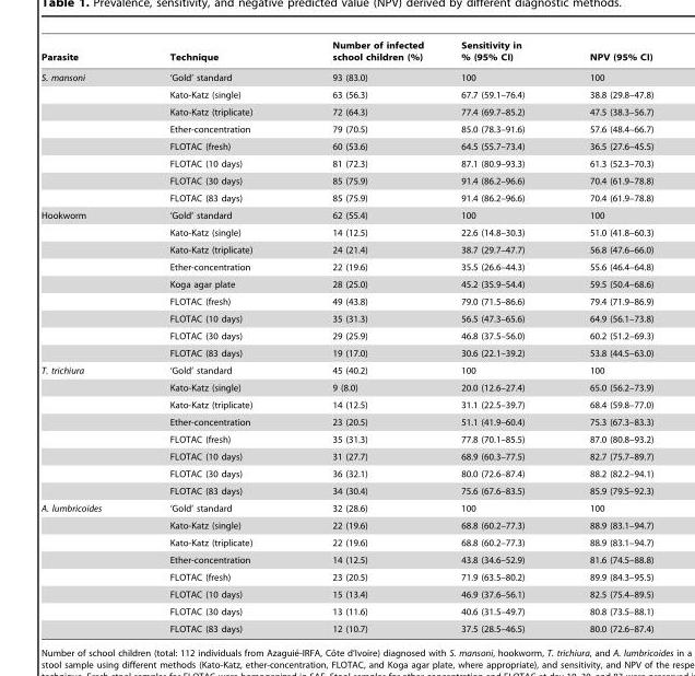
<table><thead><tr><td>Parasite</td><td>Technique</td><td>Number of infected school children (%)</td><td>Sensitivity in % (95% CI)</td><td>NPV (95% CI)</td></tr></thead><tbody><tr><td rowspan="8">S. mansoni</td><td>‘Gold’ standard</td><td>93 (83.0)</td><td>100</td><td>100</td></tr><tr><td>Kato-Katz (single)</td><td>63 (56.3)</td><td>67.7 (59.1–76.4)</td><td>38.8 (29.8–47.8)</td></tr><tr><td>Kato-Katz (triplicate)</td><td>72 (64.3)</td><td>77.4 (69.7–85.2)</td><td>47.5 (38.3–56.7)</td></tr><tr><td>Ether-concentration</td><td>79 (70.5)</td><td>85.0 (78.3–91.6)</td><td>57.6 (48.4–66.7)</td></tr><tr><td>FLOTAC (fresh)</td><td>60 (53.6)</td><td>64.5 (55.7–73.4)</td><td>36.5 (27.6–45.5)</td></tr><tr><td>FLOTAC (10 days)</td><td>81 (72.3)</td><td>87.1 (80.9–93.3)</td><td>61.3 (52.3–70.3)</td></tr><tr><td>FLOTAC (30 days)</td><td>85 (75.9)</td><td>91.4 (86.2–96.6)</td><td>70.4 (61.9–78.8)</td></tr><tr><td>FLOTAC (83 days)</td><td>85 (75.9)</td><td>91.4 (86.2–96.6)</td><td>70.4 (61.9–78.8)</td></tr><tr><td rowspan="9">Hookworm</td><td>‘Gold’ standard</td><td>62 (55.4)</td><td>100</td><td>100</td></tr><tr><td>Kato-Katz (single)</td><td>14 (12.5)</td><td>22.6 (14.8–30.3)</td><td>51.0 (41.8–60.3)</td></tr><tr><td>Kato-Katz (triplicate)</td><td>24 (21.4)</td><td>38.7 (29.7–47.7)</td><td>56.8 (47.6–66.0)</td></tr><tr><td>Ether-concentration</td><td>22 (19.6)</td><td>35.5 (26.6–44.3)</td><td>55.6 (46.4–64.8)</td></tr><tr><td>Koga agar plate</td><td>28 (25.0)</td><td>45.2 (35.9–54.4)</td><td>59.5 (50.4–68.6)</td></tr><tr><td>FLOTAC (fresh)</td><td>49 (43.8)</td><td>79.0 (71.5–86.6)</td><td>79.4 (71.9–86.9)</td></tr><tr><td>FLOTAC (10 days)</td><td>35 (31.3)</td><td>56.5 (47.3–65.6)</td><td>64.9 (56.1–73.8)</td></tr><tr><td>FLOTAC (30 days)</td><td>29 (25.9)</td><td>46.8 (37.5–56.0)</td><td>60.2 (51.2–69.3)</td></tr><tr><td>FLOTAC (83 days)</td><td>19 (17.0)</td><td>30.6 (22.1–39.2)</td><td>53.8 (44.5–63.0)</td></tr><tr><td rowspan="8">T. trichiura</td><td>‘Gold’ standard</td><td>45 (40.2)</td><td>100</td><td>100</td></tr><tr><td>Kato-Katz (single)</td><td>9 (8.0)</td><td>20.0 (12.6–27.4)</td><td>65.0 (56.2–73.9)</td></tr><tr><td>Kato-Katz (triplicate)</td><td>14 (12.5)</td><td>31.1 (22.5–39.7)</td><td>68.4 (59.8–77.0)</td></tr><tr><td>Ether-concentration</td><td>23 (20.5)</td><td>51.1 (41.9–60.4)</td><td>75.3 (67.3–83.3)</td></tr><tr><td>FLOTAC (fresh)</td><td>35 (31.3)</td><td>77.8 (70.1–85.5)</td><td>87.0 (80.8–93.2)</td></tr><tr><td>FLOTAC (10 days)</td><td>31 (27.7)</td><td>68.9 (60.3–77.5)</td><td>82.7 (75.7–89.7)</td></tr><tr><td>FLOTAC (30 days)</td><td>36 (32.1)</td><td>80.0 (72.6–87.4)</td><td>88.2 (82.2–94.1)</td></tr><tr><td>FLOTAC (83 days)</td><td>34 (30.4)</td><td>75.6 (67.6–83.5)</td><td>85.9 (79.5–92.3)</td></tr><tr><td rowspan="8">A. lumbricoides</td><td>‘Gold’ standard</td><td>32 (28.6)</td><td>100</td><td>100</td></tr><tr><td>Kato-Katz (single)</td><td>22 (19.6)</td><td>68.8 (60.2–77.3)</td><td>88.9 (83.1–94.7)</td></tr><tr><td>Kato-Katz (triplicate)</td><td>22 (19.6)</td><td>68.8 (60.2–77.3)</td><td>88.9 (83.1–94.7)</td></tr><tr><td>Ether-concentration</td><td>14 (12.5)</td><td>43.8 (34.6–52.9)</td><td>81.6 (74.5–88.8)</td></tr><tr><td>FLOTAC (fresh)</td><td>23 (20.5)</td><td>71.9 (63.5–80.2)</td><td>89.9 (84.3–95.5)</td></tr><tr><td>FLOTAC (10 days)</td><td>15 (13.4)</td><td>46.9 (37.6–56.1)</td><td>82.5 (75.4–89.5)</td></tr><tr><td>FLOTAC (30 days)</td><td>13 (11.6)</td><td>40.6 (31.5–49.7)</td><td>80.8 (73.5–88.1)</td></tr><tr><td>FLOTAC (83 days)</td><td>12 (10.7)</td><td>37.5 (28.5–46.5)</td><td>80.0 (72.6–87.4)</td></tr></tbody></table>